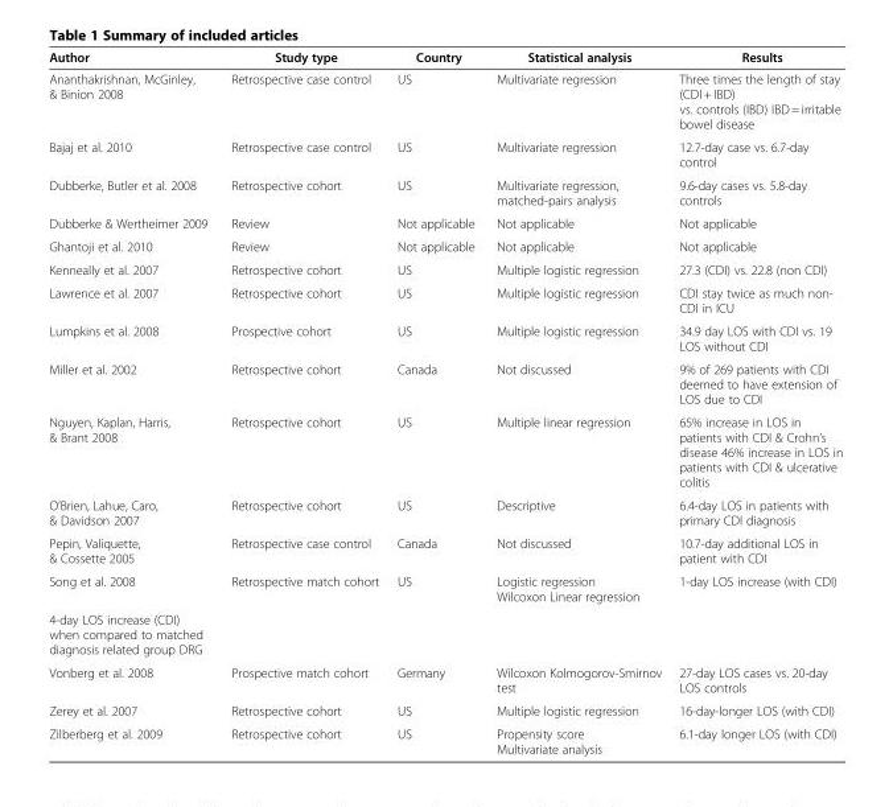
<table><thead><tr><td>Author</td><td>Study type</td><td>Country</td><td>Statistical analysis</td><td>Results</td></tr></thead><tbody><tr><td>Ananthakrishnan, McGinley, &amp; Binion 2008</td><td>Retrospective case control</td><td>US</td><td>Multivariate regression</td><td>Three times the length of stay (CDI + IBD) vs. controls (IBD) IBD = irritable bowel disease</td></tr><tr><td>Bajaj et al. 2010</td><td>Retrospective case control</td><td>US</td><td>Multivariate regression</td><td>12.7-day case vs. 6.7-day control</td></tr><tr><td>Dubberke, Butler et al. 2008</td><td>Retrospective cohort</td><td>US</td><td>Multivariate regression, matched-pairs analysis</td><td>9.6-day cases vs. 5.8-day controls</td></tr><tr><td>Dubberke &amp; Wertheimer 2009</td><td>Review</td><td>Not applicable</td><td>Not applicable</td><td>Not applicable</td></tr><tr><td>Ghantoji et al. 2010</td><td>Review</td><td>Not applicable</td><td>Not applicable</td><td>Not applicable</td></tr><tr><td>Kenneally et al. 2007</td><td>Retrospective cohort</td><td>US</td><td>Multiple logistic regression</td><td>27.3 (CDI) vs. 22.8 (non CDI)</td></tr><tr><td>Lawrence et al. 2007</td><td>Retrospective cohort</td><td>US</td><td>Multiple logistic regression</td><td>CDI stay twice as much non- CDI in ICU</td></tr><tr><td>Lumpkins et al. 2008</td><td>Prospective cohort</td><td>US</td><td>Multiple logistic regression</td><td>34.9 day LOS with CDI vs. 19 LOS without CDI</td></tr><tr><td>Miller et al. 2002</td><td>Retrospective cohort</td><td>Canada</td><td>Not discussed</td><td>9% of 269 patients with CDI deemed to have extension of LOS due to CDI</td></tr><tr><td>Nguyen, Kaplan, Harris, &amp; Brant 2008</td><td>Retrospective cohort</td><td>US</td><td>Multiple linear regression</td><td>65% increase in LOS in patients with CDI &amp; Crohn’s disease 46% increase in LOS in patients with CDI &amp; ulcerative colitis</td></tr><tr><td>O’Brien, Lahue, Caro, &amp; Davidson 2007</td><td>Retrospective cohort</td><td>US</td><td>Descriptive</td><td>6.4-day LOS in patients with primary CDI diagnosis</td></tr><tr><td>Pepin, Valiquette, &amp; Cossette 2005</td><td>Retrospective case control</td><td>Canada</td><td>Not discussed</td><td>10.7-day additional LOS in patient with CDI</td></tr><tr><td>Song et al. 2008</td><td>Retrospective match cohort</td><td>US</td><td>Logistic regression Wilcoxon Linear regression</td><td>1-day LOS increase (with CDI)</td></tr><tr><td colspan="5">4-day LOS increase (CDI) when compared to matched diagnosis related group DRG</td></tr><tr><td>Vonberg et al. 2008</td><td>Prospective match cohort</td><td>Germany</td><td>Wilcoxon Kolmogorov-Smirnov test</td><td>27-day LOS cases vs. 20-day LOS controls</td></tr><tr><td>Zerey et al. 2007</td><td>Retrospective cohort</td><td>US</td><td>Multiple logistic regression</td><td>16-day-longer LOS (with CDI)</td></tr><tr><td>Zilberberg et al. 2009</td><td>Retrospective cohort</td><td>US</td><td>Propensity score Multivariate analysis</td><td>6.1-day longer LOS (with CDI)</td></tr></tbody></table>